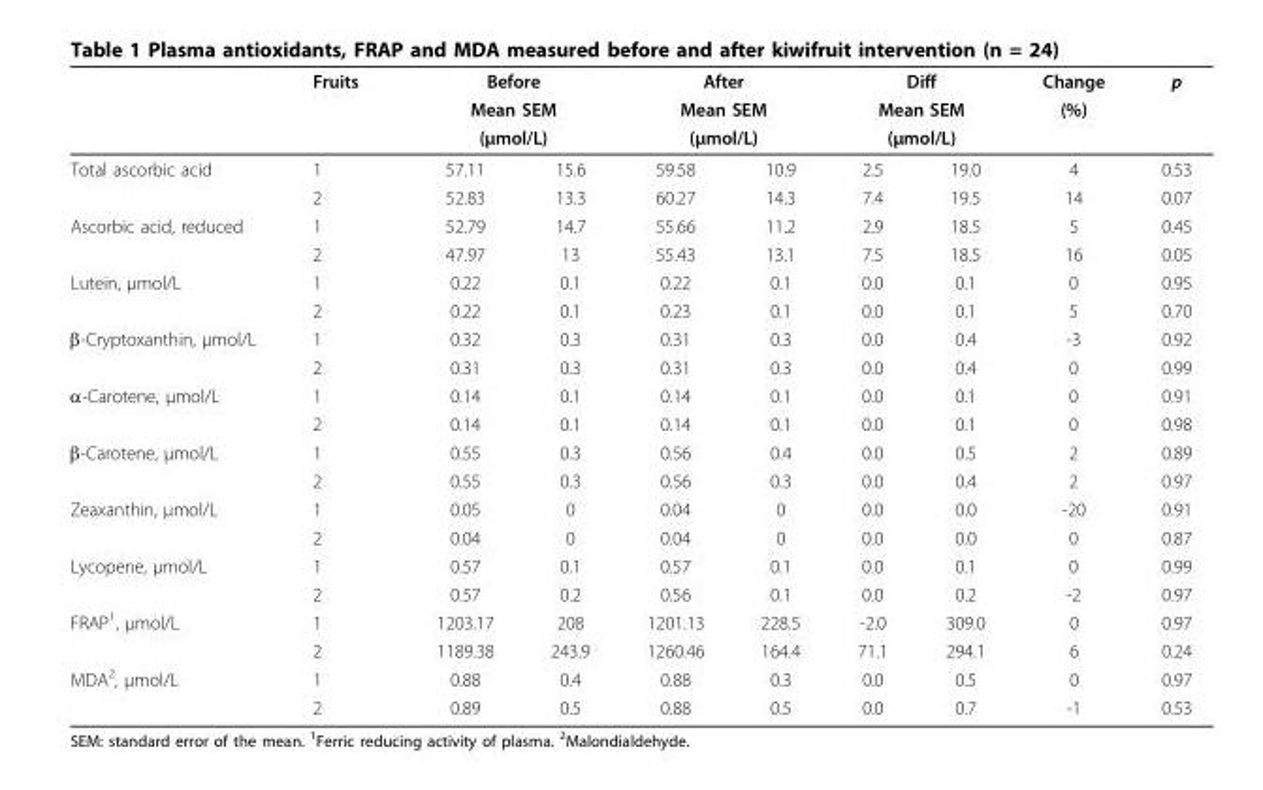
<table><thead><tr><td rowspan="4">Total ascorbic acid</td><td rowspan="4">Fruits 1</td><td rowspan="3" colspan="2">Before Mean SEM (μmol/L)</td><td rowspan="3" colspan="2">After Mean SEM (μmol/L)</td><td rowspan="3" colspan="2">Diff Mean SEM (μmol/L)</td><td rowspan="4">Change (%) 4</td><td rowspan="4">p 0.53</td></tr><tr></tr><tr></tr><tr><td>57.11</td><td>15.6</td><td>59.58</td><td>10.9</td><td>2.5</td><td>19.0</td></tr></thead><tbody><tr><td></td><td>2</td><td>52.83</td><td>13.3</td><td>60.27</td><td>14.3</td><td>7.4</td><td>19.5</td><td>14</td><td>0.07</td></tr><tr><td rowspan="2">Ascorbic acid, reduced</td><td>1</td><td>52.79</td><td>14.7</td><td>55.66</td><td>11.2</td><td>2.9</td><td>18.5</td><td>5</td><td>0.45</td></tr><tr><td>2</td><td>47.97</td><td>13</td><td>55.43</td><td>13.1</td><td>7.5</td><td>18.5</td><td>16</td><td>0.05</td></tr><tr><td rowspan="2">Lutein, μmol/L</td><td>1</td><td>0.22</td><td>0.1</td><td>0.22</td><td>0.1</td><td>0.0</td><td>0.1</td><td>0</td><td>0.95</td></tr><tr><td>2</td><td>0.22</td><td>0.1</td><td>0.23</td><td>0.1</td><td>0.0</td><td>0.1</td><td>5</td><td>0.70</td></tr><tr><td rowspan="2">β-Cryptoxanthin, μmol/L</td><td>1</td><td>0.32</td><td>0.3</td><td>0.31</td><td>0.3</td><td>0.0</td><td>0.4</td><td>-3</td><td>0.92</td></tr><tr><td>2</td><td>0.31</td><td>0.3</td><td>0.31</td><td>0.3</td><td>0.0</td><td>0.4</td><td>0</td><td>0.99</td></tr><tr><td rowspan="2">α-Carotene, μmol/L</td><td>1</td><td>0.14</td><td>0.1</td><td>0.14</td><td>0.1</td><td>0.0</td><td>0.1</td><td>0</td><td>0.91</td></tr><tr><td>2</td><td>0.14</td><td>0.1</td><td>0.14</td><td>0.1</td><td>0.0</td><td>0.1</td><td>0</td><td>0.98</td></tr><tr><td rowspan="2">β-Carotene, μmol/L</td><td>1</td><td>0.55</td><td>0.3</td><td>0.56</td><td>0.4</td><td>0.0</td><td>0.5</td><td>2</td><td>0.89</td></tr><tr><td>2</td><td>0.55</td><td>0.3</td><td>0.56</td><td>0.3</td><td>0.0</td><td>0.4</td><td>2</td><td>0.97</td></tr><tr><td rowspan="2">Zeaxanthin, μmol/L</td><td>1</td><td>0.05</td><td>0</td><td>0.04</td><td>0</td><td>0.0</td><td>0.0</td><td>-20</td><td>0.91</td></tr><tr><td>2</td><td>0.04</td><td>0</td><td>0.04</td><td>0</td><td>0.0</td><td>0.0</td><td>0</td><td>0.87</td></tr><tr><td rowspan="2">Lycopene, μmol/L</td><td>1</td><td>0.57</td><td>0.1</td><td>0.57</td><td>0.1</td><td>0.0</td><td>0.1</td><td>0</td><td>0.99</td></tr><tr><td>2</td><td>0.57</td><td>0.2</td><td>0.56</td><td>0.1</td><td>0.0</td><td>0.2</td><td>-2</td><td>0.97</td></tr><tr><td rowspan="2">FRAP<sup>1</sup>, μmol/L</td><td>1</td><td>1203.17</td><td>208</td><td>1201.13</td><td>228.5</td><td>-2.0</td><td>309.0</td><td>0</td><td>0.97</td></tr><tr><td>2</td><td>1189.38</td><td>243.9</td><td>1260.46</td><td>164.4</td><td>71.1</td><td>294.1</td><td>6</td><td>0.24</td></tr><tr><td rowspan="2">MDA<sup>2</sup>, μmol/L</td><td>1</td><td>0.88</td><td>0.4</td><td>0.88</td><td>0.3</td><td>0.0</td><td>0.5</td><td>0</td><td>0.97</td></tr><tr><td>2</td><td>0.89</td><td>0.5</td><td>0.88</td><td>0.5</td><td>0.0</td><td>0.7</td><td>-1</td><td>0.53</td></tr></tbody></table>